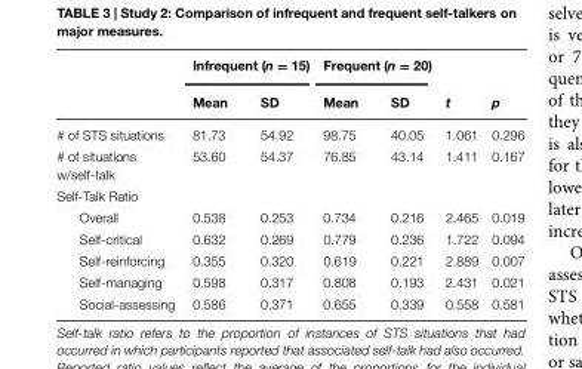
<table><thead><tr><td rowspan="2"></td><td colspan="2">Infrequent (n = 15)</td><td colspan="2">Frequent (n = 20)</td><td rowspan="2">t</td><td rowspan="2">p</td></tr><tr><td>Mean</td><td>SD</td><td>Mean</td><td>SD</td></tr></thead><tbody><tr><td># of STS situations</td><td>81.73</td><td>54.92</td><td>98.75</td><td>40.05</td><td>1.061</td><td>0.296</td></tr><tr><td># of situations w/self-talk</td><td>53.60</td><td>54.37</td><td>76.85</td><td>43.14</td><td>1.411</td><td>0.167</td></tr><tr><td colspan="7">Self-Talk Ratio</td></tr><tr><td>Overall</td><td>0.538</td><td>0.253</td><td>0.734</td><td>0.216</td><td>2.465</td><td>0.019</td></tr><tr><td>Self-critical</td><td>0.632</td><td>0.269</td><td>0.779</td><td>0.236</td><td>1.722</td><td>0.094</td></tr><tr><td>Self-reinforcing</td><td>0.355</td><td>0.320</td><td>0.619</td><td>0.221</td><td>2.889</td><td>0.007</td></tr><tr><td>Self-managing</td><td>0.598</td><td>0.317</td><td>0.808</td><td>0.193</td><td>2.431</td><td>0.021</td></tr><tr><td>Social-assessing</td><td>0.586</td><td>0.371</td><td>0.655</td><td>0.339</td><td>0.558</td><td>0.581</td></tr></tbody></table>